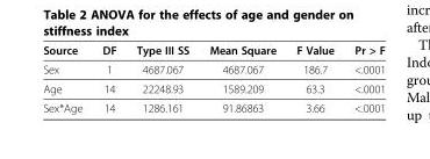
<table><thead><tr><td>Source</td><td>DF</td><td>Type III SS</td><td>Mean Square</td><td>F Value</td><td>Pr &gt; F</td></tr></thead><tbody><tr><td>Sex</td><td>1</td><td>4687.067</td><td>4687.067</td><td>186.7</td><td>&lt;.0001</td></tr><tr><td>Age</td><td>14</td><td>22248.93</td><td>1589.209</td><td>63.3</td><td>&lt;.0001</td></tr><tr><td>Sex*Age</td><td>14</td><td>1286.161</td><td>91.86863</td><td>3.66</td><td>&lt;.0001</td></tr></tbody></table>